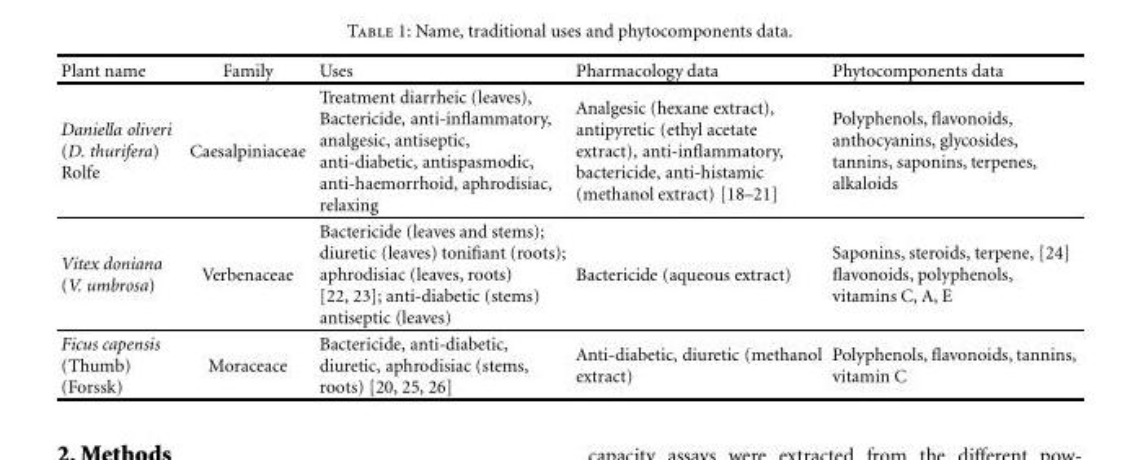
<table><thead><tr><td>Plant name</td><td>Family</td><td>Uses</td><td>Pharmacology data</td><td>Phytocomponents data</td></tr></thead><tbody><tr><td>Daniella oliveri (D. thurifera) Rolfe</td><td>Caesalpiniaceae</td><td>Treatment diarrheic (leaves), Bactericide, anti-inflammatory, analgesic, antiseptic, anti-diabetic, antispasmodic, anti-haemorrhoid, aphrodisiac, relaxing</td><td>Analgesic (hexane extract), antipyretic (ethyl acetate extract), anti-inflammatory, bactericide, anti-histamic (methanol extract) [18–21]</td><td>Polyphenols, flavonoids, anthocyanins, glycosides, tannins, saponins, terpenes, alkaloids</td></tr><tr><td>Vitex doniana (V. umbrosa)</td><td>Verbenaceae</td><td>Bactericide (leaves and stems); diuretic (leaves) tonifiant (roots); aphrodisiac (leaves, roots) [22, 23]; anti-diabetic (stems) antiseptic (leaves)</td><td>Bactericide (aqueous extract)</td><td>Saponins, steroids, terpene, [24] flavonoids, polyphenols, vitamins C, A, E</td></tr><tr><td>Ficus capensis (Thumb) (Forssk)</td><td>Moraceace</td><td>Bactericide, anti-diabetic, diuretic, aphrodisiac (stems, roots) [20, 25, 26]</td><td>Anti-diabetic, diuretic (methanol extract)</td><td>Polyphenols, flavonoids, tannins, vitamin C</td></tr></tbody></table>